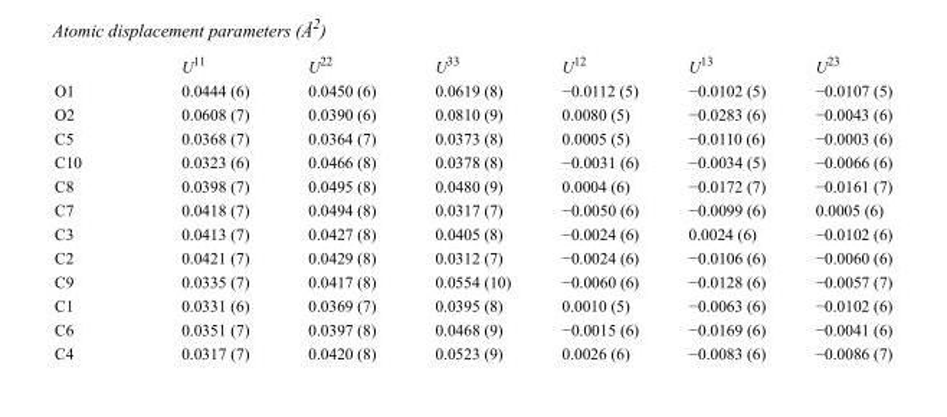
<table><thead><tr><td></td><td>U<sup>11</sup></td><td>U<sup>22</sup></td><td>U<sup>33</sup></td><td>U<sup>12</sup></td><td>U<sup>13</sup></td><td>U<sup>23</sup></td></tr></thead><tbody><tr><td>O1</td><td>0.0444 (6)</td><td>0.0450 (6)</td><td>0.0619 (8)</td><td>−0.0112 (5)</td><td>−0.0102 (5)</td><td>−0.0107 (5)</td></tr><tr><td>O2</td><td>0.0608 (7)</td><td>0.0390 (6)</td><td>0.0810 (9)</td><td>0.0080 (5)</td><td>−0.0283 (6)</td><td>−0.0043 (6)</td></tr><tr><td>C5</td><td>0.0368 (7)</td><td>0.0364 (7)</td><td>0.0373 (8)</td><td>0.0005 (5)</td><td>−0.0110 (6)</td><td>−0.0003 (6)</td></tr><tr><td>C10</td><td>0.0323 (6)</td><td>0.0466 (8)</td><td>0.0378 (8)</td><td>−0.0031 (6)</td><td>−0.0034 (5)</td><td>−0.0066 (6)</td></tr><tr><td>C8</td><td>0.0398 (7)</td><td>0.0495 (8)</td><td>0.0480 (9)</td><td>0.0004 (6)</td><td>−0.0172 (7)</td><td>−0.0161 (7)</td></tr><tr><td>C7</td><td>0.0418 (7)</td><td>0.0494 (8)</td><td>0.0317 (7)</td><td>−0.0050 (6)</td><td>−0.0099 (6)</td><td>0.0005 (6)</td></tr><tr><td>C3</td><td>0.0413 (7)</td><td>0.0427 (8)</td><td>0.0405 (8)</td><td>−0.0024 (6)</td><td>0.0024 (6)</td><td>−0.0102 (6)</td></tr><tr><td>C2</td><td>0.0421 (7)</td><td>0.0429 (8)</td><td>0.0312 (7)</td><td>−0.0024 (6)</td><td>−0.0106 (6)</td><td>−0.0060 (6)</td></tr><tr><td>C9</td><td>0.0335 (7)</td><td>0.0417 (8)</td><td>0.0554 (10)</td><td>−0.0060 (6)</td><td>−0.0128 (6)</td><td>−0.0057 (7)</td></tr><tr><td>C1</td><td>0.0331 (6)</td><td>0.0369 (7)</td><td>0.0395 (8)</td><td>0.0010 (5)</td><td>−0.0063 (6)</td><td>−0.0102 (6)</td></tr><tr><td>C6</td><td>0.0351 (7)</td><td>0.0397 (8)</td><td>0.0468 (9)</td><td>−0.0015 (6)</td><td>−0.0169 (6)</td><td>−0.0041 (6)</td></tr><tr><td>C4</td><td>0.0317 (7)</td><td>0.0420 (8)</td><td>0.0523 (9)</td><td>0.0026 (6)</td><td>−0.0083 (6)</td><td>−0.0086 (7)</td></tr></tbody></table>